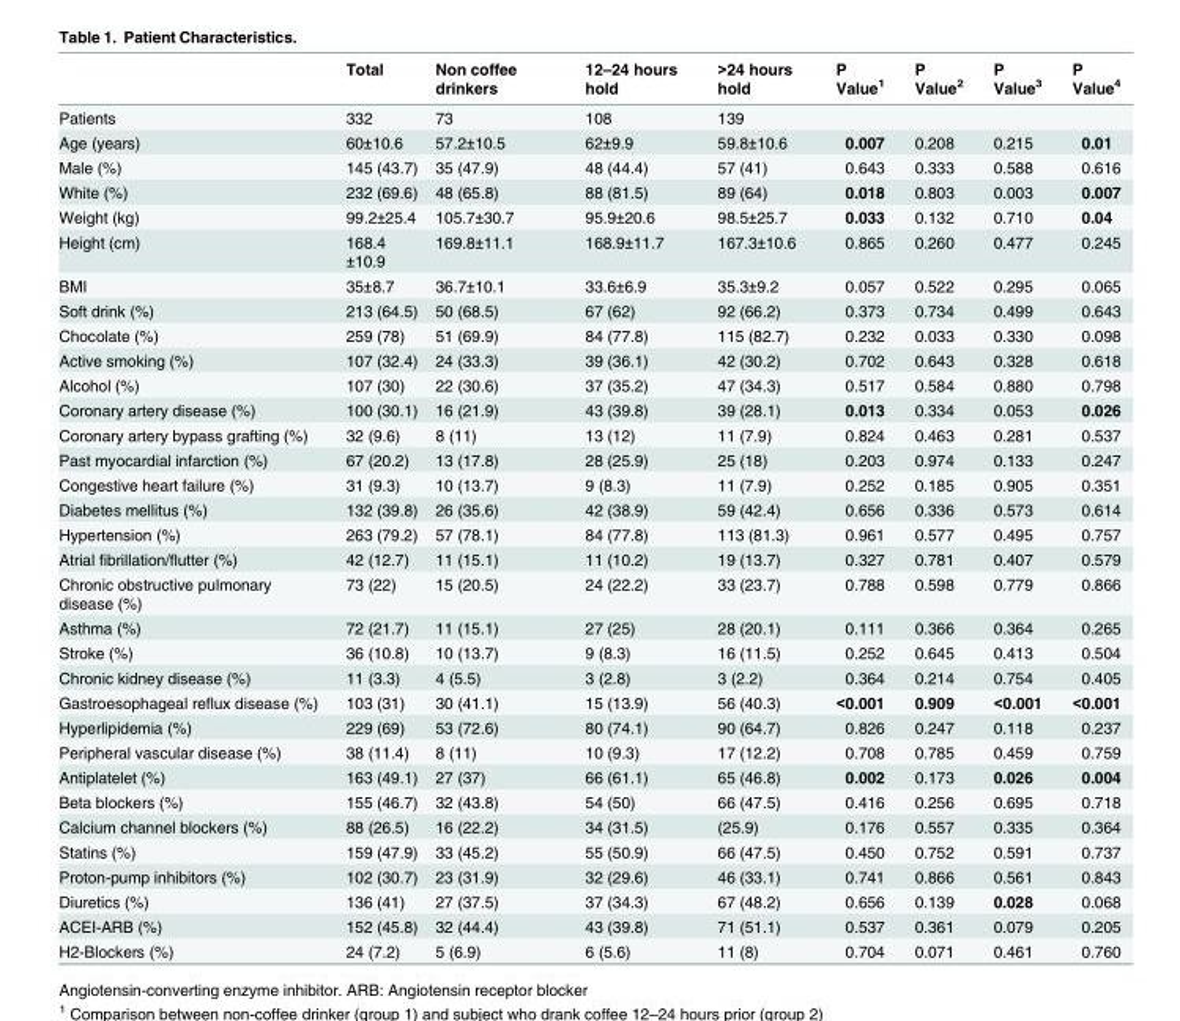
<table><thead><tr><td></td><td>Total</td><td>Non coffee drinkers</td><td>12–24 hours hold</td><td>&gt;24 hours hold</td><td>P Value<sup>1</sup></td><td>P Value<sup>2</sup></td><td>P Value<sup>3</sup></td><td>P Value<sup>4</sup></td></tr></thead><tbody><tr><td>Patients</td><td>332</td><td>73</td><td>108</td><td>139</td><td></td><td></td><td></td><td></td></tr><tr><td>Age (years)</td><td>60±10.6</td><td>57.2±10.5</td><td>62±9.9</td><td>59.8±10.6</td><td>0.007</td><td>0.208</td><td>0.215</td><td>0.01</td></tr><tr><td>Male (%)</td><td>145 (43.7)</td><td>35 (47.9)</td><td>48 (44.4)</td><td>57 (41)</td><td>0.643</td><td>0.333</td><td>0.588</td><td>0.616</td></tr><tr><td>White (%)</td><td>232 (69.6)</td><td>48 (65.8)</td><td>88 (81.5)</td><td>89 (64)</td><td>0.018</td><td>0.803</td><td>0.003</td><td>0.007</td></tr><tr><td>Weight (kg)</td><td>99.2±25.4</td><td>105.7±30.7</td><td>95.9±20.6</td><td>98.5±25.7</td><td>0.033</td><td>0.132</td><td>0.710</td><td>0.04</td></tr><tr><td>Height (cm)</td><td>168.4 ±10.9</td><td>169.8±11.1</td><td>168.9±11.7</td><td>167.3±10.6</td><td>0.865</td><td>0.260</td><td>0.477</td><td>0.245</td></tr><tr><td>BMI</td><td>35±8.7</td><td>36.7±10.1</td><td>33.6±6.9</td><td>35.3±9.2</td><td>0.057</td><td>0.522</td><td>0.295</td><td>0.065</td></tr><tr><td>Soft drink (%)</td><td>213 (64.5)</td><td>50 (68.5)</td><td>67 (62)</td><td>92 (66.2)</td><td>0.373</td><td>0.734</td><td>0.499</td><td>0.643</td></tr><tr><td>Chocolate (%)</td><td>259 (78)</td><td>51 (69.9)</td><td>84 (77.8)</td><td>115 (82.7)</td><td>0.232</td><td>0.033</td><td>0.330</td><td>0.098</td></tr><tr><td>Active smoking (%)</td><td>107 (32.4)</td><td>24 (33.3)</td><td>39 (36.1)</td><td>42 (30.2)</td><td>0.702</td><td>0.643</td><td>0.328</td><td>0.618</td></tr><tr><td>Alcohol (%)</td><td>107 (30)</td><td>22 (30.6)</td><td>37 (35.2)</td><td>47 (34.3)</td><td>0.517</td><td>0.584</td><td>0.880</td><td>0.798</td></tr><tr><td>Coronary artery disease (%)</td><td>100 (30.1)</td><td>16 (21.9)</td><td>43 (39.8)</td><td>39 (28.1)</td><td>0.013</td><td>0.334</td><td>0.053</td><td>0.026</td></tr><tr><td>Coronary artery bypass grafting (%)</td><td>32 (9.6)</td><td>8 (11)</td><td>13 (12)</td><td>11 (7.9)</td><td>0.824</td><td>0.463</td><td>0.281</td><td>0.537</td></tr><tr><td>Past myocardial infarction (%)</td><td>67 (20.2)</td><td>13 (17.8)</td><td>28 (25.9)</td><td>25 (18)</td><td>0.203</td><td>0.974</td><td>0.133</td><td>0.247</td></tr><tr><td>Congestive heart failure (%)</td><td>31 (9.3)</td><td>10 (13.7)</td><td>9 (8.3)</td><td>11 (7.9)</td><td>0.252</td><td>0.185</td><td>0.905</td><td>0.351</td></tr><tr><td>Diabetes mellitus (%)</td><td>132 (39.8)</td><td>26 (35.6)</td><td>42 (38.9)</td><td>59 (42.4)</td><td>0.656</td><td>0.336</td><td>0.573</td><td>0.614</td></tr><tr><td>Hypertension (%)</td><td>263 (79.2)</td><td>57 (78.1)</td><td>84 (77.8)</td><td>113 (81.3)</td><td>0.961</td><td>0.577</td><td>0.495</td><td>0.757</td></tr><tr><td>Atrial fibrillation/flutter (%)</td><td>42 (12.7)</td><td>11 (15.1)</td><td>11 (10.2)</td><td>19 (13.7)</td><td>0.327</td><td>0.781</td><td>0.407</td><td>0.579</td></tr><tr><td>Chronic obstructive pulmonary disease (%)</td><td>73 (22)</td><td>15 (20.5)</td><td>24 (22.2)</td><td>33 (23.7)</td><td>0.788</td><td>0.598</td><td>0.779</td><td>0.866</td></tr><tr><td>Asthma (%)</td><td>72 (21.7)</td><td>11 (15.1)</td><td>27 (25)</td><td>28 (20.1)</td><td>0.111</td><td>0.366</td><td>0.364</td><td>0.265</td></tr><tr><td>Stroke (%)</td><td>36 (10.8)</td><td>10 (13.7)</td><td>9 (8.3)</td><td>16 (11.5)</td><td>0.252</td><td>0.645</td><td>0.413</td><td>0.504</td></tr><tr><td>Chronic kidney disease (%)</td><td>11 (3.3)</td><td>4 (5.5)</td><td>3 (2.8)</td><td>3 (2.2)</td><td>0.364</td><td>0.214</td><td>0.754</td><td>0.405</td></tr><tr><td>Gastroesophageal reflux disease (%)</td><td>103 (31)</td><td>30 (41.1)</td><td>15 (13.9)</td><td>56 (40.3)</td><td>&lt;0.001</td><td>0.909</td><td>&lt;0.001</td><td>&lt;0.001</td></tr><tr><td>Hyperlipidemia (%)</td><td>229 (69)</td><td>53 (72.6)</td><td>80 (74.1)</td><td>90 (64.7)</td><td>0.826</td><td>0.247</td><td>0.118</td><td>0.237</td></tr><tr><td>Peripheral vascular disease (%)</td><td>38 (11.4)</td><td>8 (11)</td><td>10 (9.3)</td><td>17 (12.2)</td><td>0.708</td><td>0.785</td><td>0.459</td><td>0.759</td></tr><tr><td>Antiplatelet (%)</td><td>163 (49.1)</td><td>27 (37)</td><td>66 (61.1)</td><td>65 (46.8)</td><td>0.002</td><td>0.173</td><td>0.026</td><td>0.004</td></tr><tr><td>Beta blockers (%)</td><td>155 (46.7)</td><td>32 (43.8)</td><td>54 (50)</td><td>66 (47.5)</td><td>0.416</td><td>0.256</td><td>0.695</td><td>0.718</td></tr><tr><td>Calcium channel blockers (%)</td><td>88 (26.5)</td><td>16 (22.2)</td><td>34 (31.5)</td><td>(25.9)</td><td>0.176</td><td>0.557</td><td>0.335</td><td>0.364</td></tr><tr><td>Statins (%)</td><td>159 (47.9)</td><td>33 (45.2)</td><td>55 (50.9)</td><td>66 (47.5)</td><td>0.450</td><td>0.752</td><td>0.591</td><td>0.737</td></tr><tr><td>Proton-pump inhibitors (%)</td><td>102 (30.7)</td><td>23 (31.9)</td><td>32 (29.6)</td><td>46 (33.1)</td><td>0.741</td><td>0.866</td><td>0.561</td><td>0.843</td></tr><tr><td>Diuretics (%)</td><td>136 (41)</td><td>27 (37.5)</td><td>37 (34.3)</td><td>67 (48.2)</td><td>0.656</td><td>0.139</td><td>0.028</td><td>0.068</td></tr><tr><td>ACEI-ARB (%)</td><td>152 (45.8)</td><td>32 (44.4)</td><td>43 (39.8)</td><td>71 (51.1)</td><td>0.537</td><td>0.361</td><td>0.079</td><td>0.205</td></tr><tr><td>H2-Blockers (%)</td><td>24 (7.2)</td><td>5 (6.9)</td><td>6 (5.6)</td><td>11 (8)</td><td>0.704</td><td>0.071</td><td>0.461</td><td>0.760</td></tr></tbody></table>